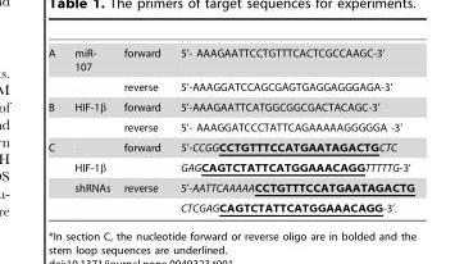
<table><tbody><tr><td rowspan="2">A</td><td>miR- 107</td><td>forward</td><td>5’- AAAGAATTCCTGTTTCACTCGCCAAGC-3’</td></tr><tr><td></td><td>reverse</td><td>5’-AAAGGATCCAGCGAGTGAGGAGGGAGA-3’</td></tr><tr><td rowspan="2">B</td><td>HIF-1β</td><td>forward</td><td>5’-AAAGAATTCATGGCGGCGACTACAGC-3’</td></tr><tr><td></td><td>reverse</td><td>5’- AAAGGATCCCTATTCAGAAAAAGGGGGA -3’</td></tr><tr><td rowspan="4">C</td><td></td><td>forward</td><td>5’-CCGGCCTGTTTCCATGAATAGACTGCTC</td></tr><tr><td>HIF-1β</td><td></td><td>GAGCAGTCTATTCATGGAAACAGGTTTTTG-3’</td></tr><tr><td>shRNAs</td><td>reverse</td><td>5’-AATTCAAAAACCTGTTTCCATGAATAGACTG</td></tr><tr><td></td><td></td><td>CTCGAGCAGTCTATTCATGGAAACAGG-3’.</td></tr></tbody></table>